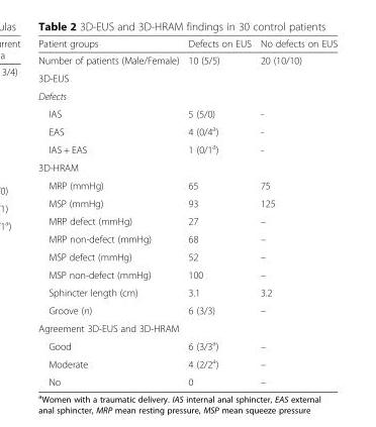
<table><thead><tr><td>Patient groups</td><td>Defects on EUS</td><td>No defects on EUS</td></tr></thead><tbody><tr><td>Number of patients (Male/Female)</td><td>10 (5/5)</td><td>20 (10/10)</td></tr><tr><td colspan="3">3D-EUS</td></tr><tr><td colspan="3">Defects</td></tr><tr><td>IAS</td><td>5 (5/0)</td><td>-</td></tr><tr><td>EAS</td><td>4 (0/4<sup>a</sup>)</td><td>-</td></tr><tr><td>IAS + EAS</td><td>1 (0/1<sup>a</sup>)</td><td>-</td></tr><tr><td colspan="3">3D-HRAM</td></tr><tr><td>MRP (mmHg)</td><td>65</td><td>75</td></tr><tr><td>MSP (mmHg)</td><td>93</td><td>125</td></tr><tr><td>MRP defect (mmHg)</td><td>27</td><td>–</td></tr><tr><td>MRP non-defect (mmHg)</td><td>68</td><td>–</td></tr><tr><td>MSP defect (mmHg)</td><td>52</td><td>–</td></tr><tr><td>MSP non-defect (mmHg)</td><td>100</td><td>–</td></tr><tr><td>Sphincter length (cm)</td><td>3.1</td><td>3.2</td></tr><tr><td>Groove (n)</td><td>6 (3/3)</td><td>–</td></tr><tr><td colspan="3">Agreement 3D-EUS and 3D-HRAM</td></tr><tr><td>Good</td><td>6 (3/3<sup>a</sup>)</td><td>–</td></tr><tr><td>Moderate</td><td>4 (2/2<sup>a</sup>)</td><td>–</td></tr><tr><td>No</td><td>0</td><td>–</td></tr></tbody></table>